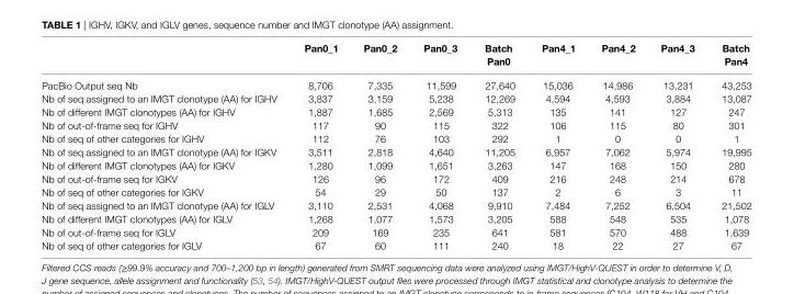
<table><thead><tr><td></td><td>Pan0_1</td><td>Pan0_2</td><td>Pan0_3</td><td>Batch Pan0</td><td>Pan4_1</td><td>Pan4_2</td><td>Pan4_3</td><td>Batch Pan4</td></tr></thead><tbody><tr><td>PacBio Output seq Nb</td><td>8,706</td><td>7,335</td><td>11,599</td><td>27,640</td><td>15,036</td><td>14,986</td><td>13,231</td><td>43,253</td></tr><tr><td>Nb of seq assigned to an IMGT clonotype (AA) for IGHV</td><td>3,837</td><td>3,159</td><td>5,238</td><td>12,269</td><td>4,594</td><td>4,593</td><td>3,884</td><td>13,087</td></tr><tr><td>Nb of different IMGT clonotypes (AA) for IGHV</td><td>1,887</td><td>1,685</td><td>2,569</td><td>5,313</td><td>135</td><td>141</td><td>127</td><td>247</td></tr><tr><td>Nb of out-of-frame seq for IGHV</td><td>117</td><td>90</td><td>115</td><td>322</td><td>106</td><td>115</td><td>80</td><td>301</td></tr><tr><td>Nb of seq of other categories for IGHV</td><td>112</td><td>76</td><td>103</td><td>292</td><td>1</td><td>0</td><td>0</td><td>1</td></tr><tr><td>Nb of seq assigned to an IMGT clonotype (AA) for IGKV</td><td>3,511</td><td>2,818</td><td>4,640</td><td>11,205</td><td>6,957</td><td>7,062</td><td>5,974</td><td>19,995</td></tr><tr><td>Nb of different IMGT clonotypes (AA) for IGKV</td><td>1,280</td><td>1,099</td><td>1,651</td><td>3,263</td><td>147</td><td>168</td><td>150</td><td>280</td></tr><tr><td>Nb of out-of-frame seq for IGKV</td><td>126</td><td>96</td><td>172</td><td>409</td><td>216</td><td>248</td><td>214</td><td>678</td></tr><tr><td>Nb of seq of other categories for IGKV</td><td>54</td><td>29</td><td>50</td><td>137</td><td>2</td><td>6</td><td>3</td><td>11</td></tr><tr><td>Nb of seq assigned to an IMGT clonotype (AA) for IGLV</td><td>3,110</td><td>2,531</td><td>4,068</td><td>9,910</td><td>7,484</td><td>7,252</td><td>6,504</td><td>21,502</td></tr><tr><td>Nb of different IMGT clonotypes (AA) for IGLV</td><td>1,268</td><td>1,077</td><td>1,573</td><td>3,205</td><td>588</td><td>548</td><td>535</td><td>1,078</td></tr><tr><td>Nb of out-of-frame seq for IGLV</td><td>209</td><td>169</td><td>235</td><td>641</td><td>581</td><td>570</td><td>488</td><td>1,639</td></tr><tr><td>Nb of seq of other categories for IGLV</td><td>67</td><td>60</td><td>111</td><td>240</td><td>18</td><td>22</td><td>27</td><td>67</td></tr></tbody></table>